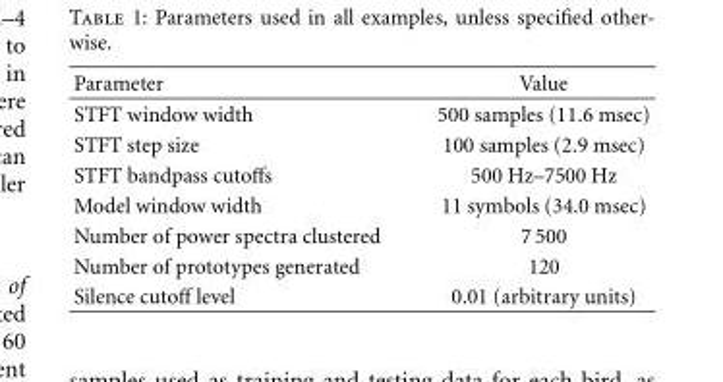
<table><thead><tr><td>Parameter</td><td>Value</td></tr></thead><tbody><tr><td>STFT window width</td><td>500 samples (11.6 msec)</td></tr><tr><td>STFT step size</td><td>100 samples (2.9 msec)</td></tr><tr><td>STFT bandpass cutoffs</td><td>500 Hz–7500 Hz</td></tr><tr><td>Model window width</td><td>11 symbols (34.0 msec)</td></tr><tr><td>Number of power spectra clustered</td><td>7 500</td></tr><tr><td>Number of prototypes generated</td><td>120</td></tr><tr><td>Silence cutoff level</td><td>0.01 (arbitrary units)</td></tr></tbody></table>